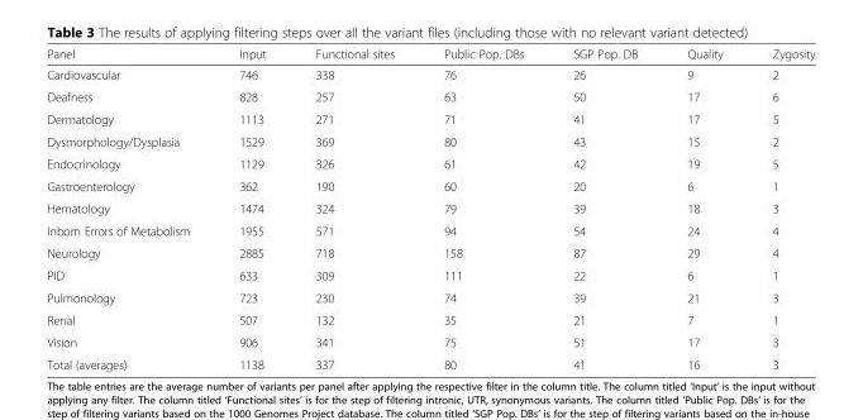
<table><thead><tr><td>Panel</td><td>Input</td><td>Functional sites</td><td>Public Pop. DBs</td><td>SGP Pop. DB</td><td>Quality</td><td>Zygosity</td></tr></thead><tbody><tr><td>Cardiovascular</td><td>746</td><td>338</td><td>76</td><td>26</td><td>9</td><td>2</td></tr><tr><td>Deafness</td><td>828</td><td>257</td><td>63</td><td>50</td><td>17</td><td>6</td></tr><tr><td>Dermatology</td><td>1113</td><td>271</td><td>71</td><td>41</td><td>17</td><td>5</td></tr><tr><td>Dysmorphology/Dysplasia</td><td>1529</td><td>369</td><td>80</td><td>43</td><td>15</td><td>2</td></tr><tr><td>Endocrinology</td><td>1129</td><td>326</td><td>61</td><td>42</td><td>19</td><td>5</td></tr><tr><td>Gastroenterology</td><td>362</td><td>190</td><td>60</td><td>20</td><td>6</td><td>1</td></tr><tr><td>Hematology</td><td>1474</td><td>324</td><td>79</td><td>39</td><td>18</td><td>3</td></tr><tr><td>Inborn Errors of Metabolism</td><td>1955</td><td>571</td><td>94</td><td>54</td><td>24</td><td>4</td></tr><tr><td>Neurology</td><td>2885</td><td>718</td><td>158</td><td>87</td><td>29</td><td>4</td></tr><tr><td>PID</td><td>633</td><td>309</td><td>111</td><td>22</td><td>6</td><td>1</td></tr><tr><td>Pulmonology</td><td>723</td><td>230</td><td>74</td><td>39</td><td>21</td><td>3</td></tr><tr><td>Renal</td><td>507</td><td>132</td><td>35</td><td>21</td><td>7</td><td>1</td></tr><tr><td>Vision</td><td>906</td><td>341</td><td>75</td><td>51</td><td>17</td><td>3</td></tr><tr><td>Total (averages)</td><td>1138</td><td>337</td><td>80</td><td>41</td><td>16</td><td>3</td></tr></tbody></table>